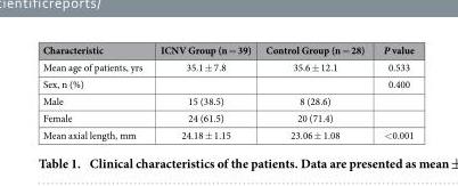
<table><thead><tr><td>Characteristic</td><td>ICNV Group (n = 39)</td><td>Control Group (n = 28)</td><td>P value</td></tr></thead><tbody><tr><td>Mean age of patients, yrs</td><td>35.1 ± 7.8</td><td>35.6 ± 12.1</td><td>0.533</td></tr><tr><td>Sex, n (%)</td><td></td><td></td><td>0.400</td></tr><tr><td>Male</td><td>15 (38.5)</td><td>8 (28.6)</td><td></td></tr><tr><td>Female</td><td>24 (61.5)</td><td>20 (71.4)</td><td></td></tr><tr><td>Mean axial length, mm</td><td>24.18 ± 1.15</td><td>23.06 ± 1.08</td><td>&lt; 0.001</td></tr></tbody></table>